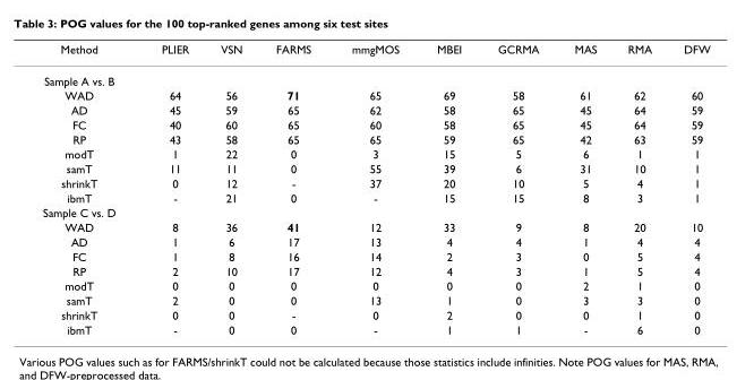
<table><thead><tr><td>Method</td><td>PLIER</td><td>VSN</td><td>FARMS</td><td>mmgMOS</td><td>MBEI</td><td>GCRMA</td><td>MAS</td><td>RMA</td><td>DFW</td></tr></thead><tbody><tr><td colspan="10">Sample A vs. B</td></tr><tr><td>WAD</td><td>64</td><td>56</td><td>71</td><td>65</td><td>69</td><td>58</td><td>61</td><td>62</td><td>60</td></tr><tr><td>AD</td><td>45</td><td>59</td><td>65</td><td>62</td><td>58</td><td>65</td><td>45</td><td>64</td><td>59</td></tr><tr><td>FC</td><td>40</td><td>60</td><td>65</td><td>60</td><td>58</td><td>65</td><td>45</td><td>64</td><td>59</td></tr><tr><td>RP</td><td>43</td><td>58</td><td>65</td><td>65</td><td>59</td><td>65</td><td>42</td><td>63</td><td>59</td></tr><tr><td>modT</td><td>1</td><td>22</td><td>0</td><td>3</td><td>15</td><td>5</td><td>6</td><td>1</td><td>1</td></tr><tr><td>samT</td><td>11</td><td>11</td><td>0</td><td>55</td><td>39</td><td>6</td><td>31</td><td>10</td><td>1</td></tr><tr><td>shrinkT</td><td>0</td><td>12</td><td>-</td><td>37</td><td>20</td><td>10</td><td>5</td><td>4</td><td>1</td></tr><tr><td>ibmT</td><td>-</td><td>21</td><td>0</td><td>-</td><td>15</td><td>15</td><td>8</td><td>3</td><td>1</td></tr><tr><td colspan="10">Sample C vs. D</td></tr><tr><td>WAD</td><td>8</td><td>36</td><td>41</td><td>12</td><td>33</td><td>9</td><td>8</td><td>20</td><td>10</td></tr><tr><td>AD</td><td>1</td><td>6</td><td>17</td><td>13</td><td>4</td><td>4</td><td>1</td><td>4</td><td>4</td></tr><tr><td>FC</td><td>1</td><td>8</td><td>16</td><td>14</td><td>2</td><td>3</td><td>0</td><td>5</td><td>4</td></tr><tr><td>RP</td><td>2</td><td>10</td><td>17</td><td>12</td><td>4</td><td>3</td><td>1</td><td>5</td><td>4</td></tr><tr><td>modT</td><td>0</td><td>0</td><td>0</td><td>0</td><td>0</td><td>0</td><td>2</td><td>1</td><td>0</td></tr><tr><td>samT</td><td>2</td><td>0</td><td>0</td><td>13</td><td>1</td><td>0</td><td>3</td><td>3</td><td>0</td></tr><tr><td>shrinkT</td><td>0</td><td>0</td><td>-</td><td>0</td><td>2</td><td>0</td><td>0</td><td>1</td><td>0</td></tr><tr><td>ibmT</td><td>-</td><td>0</td><td>0</td><td>-</td><td>1</td><td>1</td><td>-</td><td>6</td><td>0</td></tr></tbody></table>